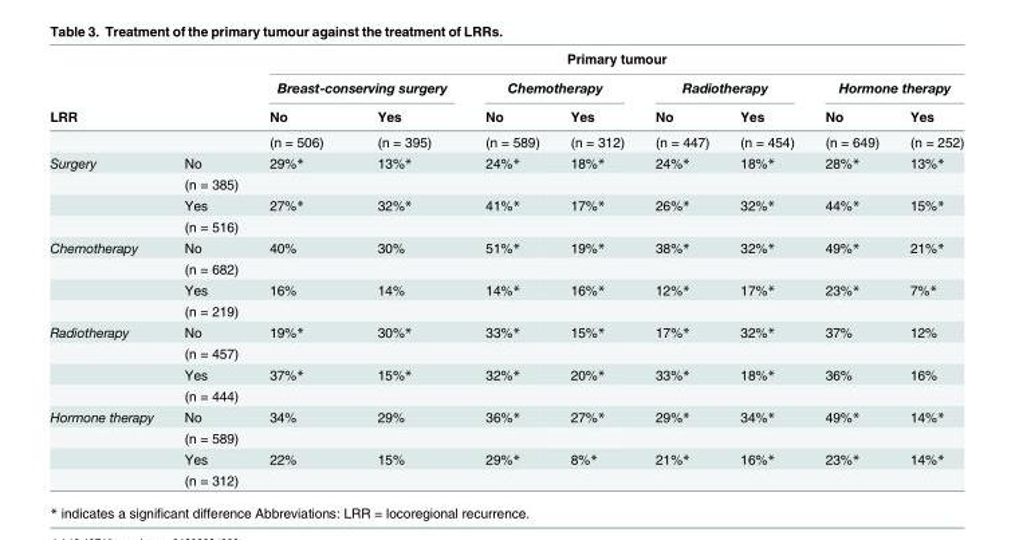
<table><thead><tr><td rowspan="3">LRR</td><td rowspan="3"></td><td colspan="8">Primary tumour</td></tr><tr><td colspan="2">Breast-conserving surgery</td><td colspan="2">Chemotherapy</td><td colspan="2">Radiotherapy</td><td colspan="2">Hormone therapy</td></tr><tr><td>No</td><td>Yes</td><td>No</td><td>Yes</td><td>No</td><td>Yes</td><td>No</td><td>Yes</td></tr></thead><tbody><tr><td></td><td></td><td>(n = 506)</td><td>(n = 395)</td><td>(n = 589)</td><td>(n = 312)</td><td>(n = 447)</td><td>(n = 454)</td><td>(n = 649)</td><td>(n = 252)</td></tr><tr><td rowspan="4">Surgery</td><td>No</td><td>29%*</td><td>13%*</td><td>24%*</td><td>18%*</td><td>24%*</td><td>18%*</td><td>28%*</td><td>13%*</td></tr><tr><td>(n = 385)</td><td></td><td></td><td></td><td></td><td></td><td></td><td></td><td></td></tr><tr><td>Yes</td><td>27%*</td><td>32%*</td><td>41%*</td><td>17%*</td><td>26%*</td><td>32%*</td><td>44%*</td><td>15%*</td></tr><tr><td>(n = 516)</td><td></td><td></td><td></td><td></td><td></td><td></td><td></td><td></td></tr><tr><td rowspan="4">Chemotherapy</td><td>No</td><td>40%</td><td>30%</td><td>51%*</td><td>19%*</td><td>38%*</td><td>32%*</td><td>49%*</td><td>21%*</td></tr><tr><td>(n = 682)</td><td></td><td></td><td></td><td></td><td></td><td></td><td></td><td></td></tr><tr><td>Yes</td><td>16%</td><td>14%</td><td>14%*</td><td>16%*</td><td>12%*</td><td>17%*</td><td>23%*</td><td>7%*</td></tr><tr><td>(n = 219)</td><td></td><td></td><td></td><td></td><td></td><td></td><td></td><td></td></tr><tr><td rowspan="4">Radiotherapy</td><td>No</td><td>19%*</td><td>30%*</td><td>33%*</td><td>15%*</td><td>17%*</td><td>32%*</td><td>37%</td><td>12%</td></tr><tr><td>(n = 457)</td><td></td><td></td><td></td><td></td><td></td><td></td><td></td><td></td></tr><tr><td>Yes</td><td>37%*</td><td>15%*</td><td>32%*</td><td>20%*</td><td>33%*</td><td>18%*</td><td>36%</td><td>16%</td></tr><tr><td>(n = 444)</td><td></td><td></td><td></td><td></td><td></td><td></td><td></td><td></td></tr><tr><td rowspan="4">Hormone therapy</td><td>No</td><td>34%</td><td>29%</td><td>36%*</td><td>27%*</td><td>29%*</td><td>34%*</td><td>49%*</td><td>14%*</td></tr><tr><td>(n = 589)</td><td></td><td></td><td></td><td></td><td></td><td></td><td></td><td></td></tr><tr><td>Yes</td><td>22%</td><td>15%</td><td>29%*</td><td>8%*</td><td>21%*</td><td>16%*</td><td>23%*</td><td>14%*</td></tr><tr><td>(n = 312)</td><td></td><td></td><td></td><td></td><td></td><td></td><td></td><td></td></tr></tbody></table>